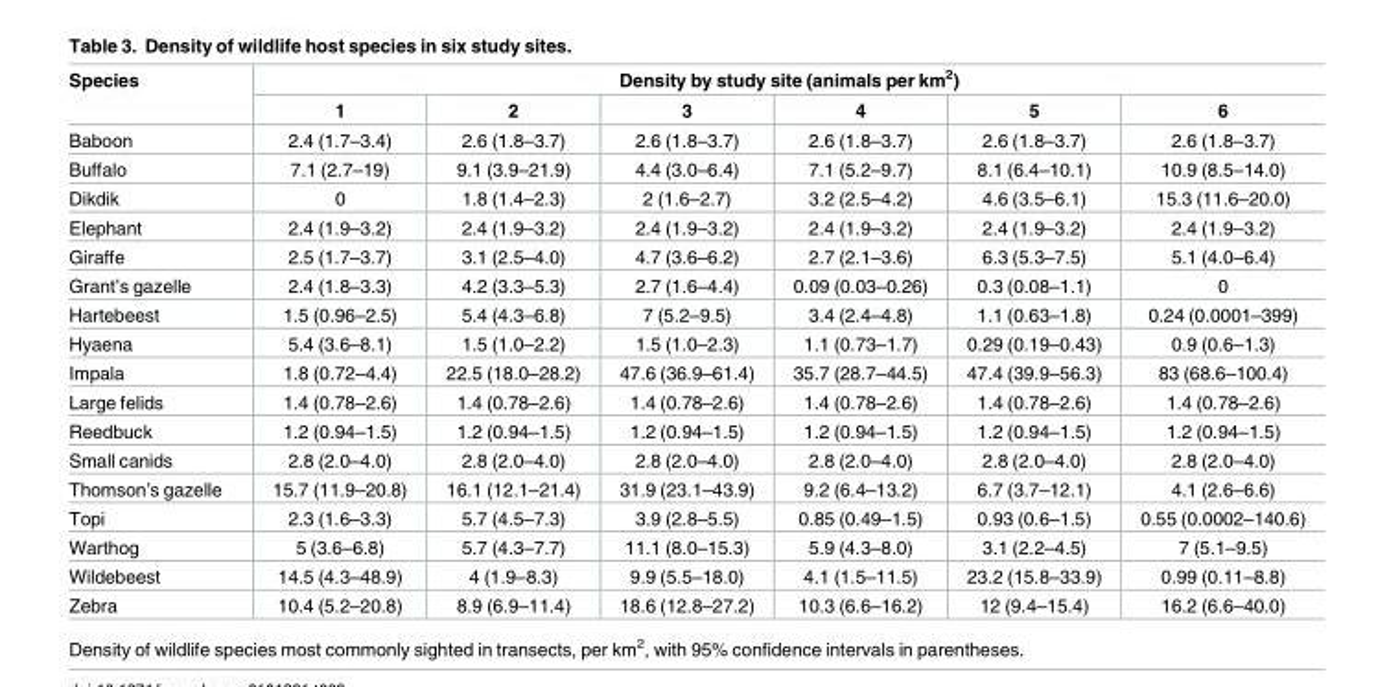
<table><thead><tr><td rowspan="2">Species</td><td colspan="6">Density by study site (animals per km<sup>2</sup>)</td></tr><tr><td>1</td><td>2</td><td>3</td><td>4</td><td>5</td><td>6</td></tr></thead><tbody><tr><td>Baboon</td><td>2.4 (1.7–3.4)</td><td>2.6 (1.8–3.7)</td><td>2.6 (1.8–3.7)</td><td>2.6 (1.8–3.7)</td><td>2.6 (1.8–3.7)</td><td>2.6 (1.8–3.7)</td></tr><tr><td>Buffalo</td><td>7.1 (2.7–19)</td><td>9.1 (3.9–21.9)</td><td>4.4 (3.0–6.4)</td><td>7.1 (5.2–9.7)</td><td>8.1 (6.4–10.1)</td><td>10.9 (8.5–14.0)</td></tr><tr><td>Dikdik</td><td>0</td><td>1.8 (1.4–2.3)</td><td>2 (1.6–2.7)</td><td>3.2 (2.5–4.2)</td><td>4.6 (3.5–6.1)</td><td>15.3 (11.6–20.0)</td></tr><tr><td>Elephant</td><td>2.4 (1.9–3.2)</td><td>2.4 (1.9–3.2)</td><td>2.4 (1.9–3.2)</td><td>2.4 (1.9–3.2)</td><td>2.4 (1.9–3.2)</td><td>2.4 (1.9–3.2)</td></tr><tr><td>Giraffe</td><td>2.5 (1.7–3.7)</td><td>3.1 (2.5–4.0)</td><td>4.7 (3.6–6.2)</td><td>2.7 (2.1–3.6)</td><td>6.3 (5.3–7.5)</td><td>5.1 (4.0–6.4)</td></tr><tr><td>Grant’s gazelle</td><td>2.4 (1.8–3.3)</td><td>4.2 (3.3–5.3)</td><td>2.7 (1.6–4.4)</td><td>0.09 (0.03–0.26)</td><td>0.3 (0.08–1.1)</td><td>0</td></tr><tr><td>Hartebeest</td><td>1.5 (0.96–2.5)</td><td>5.4 (4.3–6.8)</td><td>7 (5.2–9.5)</td><td>3.4 (2.4–4.8)</td><td>1.1 (0.63–1.8)</td><td>0.24 (0.0001–399)</td></tr><tr><td>Hyaena</td><td>5.4 (3.6–8.1)</td><td>1.5 (1.0–2.2)</td><td>1.5 (1.0–2.3)</td><td>1.1 (0.73–1.7)</td><td>0.29 (0.19–0.43)</td><td>0.9 (0.6–1.3)</td></tr><tr><td>Impala</td><td>1.8 (0.72–4.4)</td><td>22.5 (18.0–28.2)</td><td>47.6 (36.9–61.4)</td><td>35.7 (28.7–44.5)</td><td>47.4 (39.9–56.3)</td><td>83 (68.6–100.4)</td></tr><tr><td>Large felids</td><td>1.4 (0.78–2.6)</td><td>1.4 (0.78–2.6)</td><td>1.4 (0.78–2.6)</td><td>1.4 (0.78–2.6)</td><td>1.4 (0.78–2.6)</td><td>1.4 (0.78–2.6)</td></tr><tr><td>Reedbuck</td><td>1.2 (0.94–1.5)</td><td>1.2 (0.94–1.5)</td><td>1.2 (0.94–1.5)</td><td>1.2 (0.94–1.5)</td><td>1.2 (0.94–1.5)</td><td>1.2 (0.94–1.5)</td></tr><tr><td>Small canids</td><td>2.8 (2.0–4.0)</td><td>2.8 (2.0–4.0)</td><td>2.8 (2.0–4.0)</td><td>2.8 (2.0–4.0)</td><td>2.8 (2.0–4.0)</td><td>2.8 (2.0–4.0)</td></tr><tr><td>Thomson’s gazelle</td><td>15.7 (11.9–20.8)</td><td>16.1 (12.1–21.4)</td><td>31.9 (23.1–43.9)</td><td>9.2 (6.4–13.2)</td><td>6.7 (3.7–12.1)</td><td>4.1 (2.6–6.6)</td></tr><tr><td>Topi</td><td>2.3 (1.6–3.3)</td><td>5.7 (4.5–7.3)</td><td>3.9 (2.8–5.5)</td><td>0.85 (0.49–1.5)</td><td>0.93 (0.6–1.5)</td><td>0.55 (0.0002–140.6)</td></tr><tr><td>Warthog</td><td>5 (3.6–6.8)</td><td>5.7 (4.3–7.7)</td><td>11.1 (8.0–15.3)</td><td>5.9 (4.3–8.0)</td><td>3.1 (2.2–4.5)</td><td>7 (5.1–9.5)</td></tr><tr><td>Wildebeest</td><td>14.5 (4.3–48.9)</td><td>4 (1.9–8.3)</td><td>9.9 (5.5–18.0)</td><td>4.1 (1.5–11.5)</td><td>23.2 (15.8–33.9)</td><td>0.99 (0.11–8.8)</td></tr><tr><td>Zebra</td><td>10.4 (5.2–20.8)</td><td>8.9 (6.9–11.4)</td><td>18.6 (12.8–27.2)</td><td>10.3 (6.6–16.2)</td><td>12 (9.4–15.4)</td><td>16.2 (6.6–40.0)</td></tr></tbody></table>